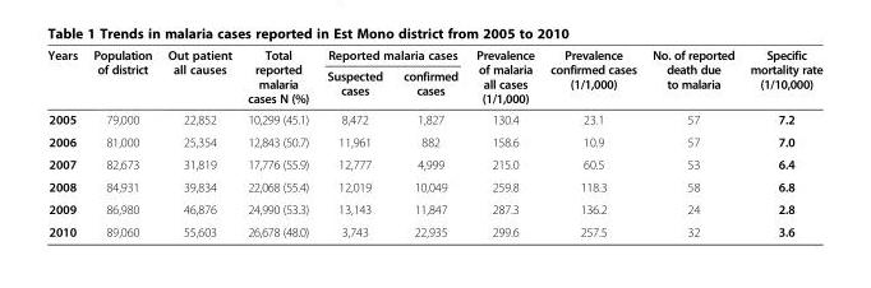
<table><thead><tr><td rowspan="2">Years</td><td rowspan="2">Population of district</td><td rowspan="2">Out patient all causes</td><td rowspan="2">Total reported malaria cases N (%)</td><td colspan="2">Reported malaria cases</td><td rowspan="2">Prevalence of malaria all cases (1/1,000)</td><td rowspan="2">Prevalence confirmed cases (1/1,000)</td><td rowspan="2">No. of reported death due to malaria</td><td rowspan="2">Specific mortality rate (1/10,000)</td></tr><tr><td>Suspected cases</td><td>confirmed cases</td></tr></thead><tbody><tr><td>2005</td><td>79,000</td><td>22,852</td><td>10,299 (45.1)</td><td>8,472</td><td>1,827</td><td>130.4</td><td>23.1</td><td>57</td><td>7.2</td></tr><tr><td>2006</td><td>81,000</td><td>25,354</td><td>12,843 (50.7)</td><td>11,961</td><td>882</td><td>158.6</td><td>10.9</td><td>57</td><td>7.0</td></tr><tr><td>2007</td><td>82,673</td><td>31,819</td><td>17,776 (55.9)</td><td>12,777</td><td>4,999</td><td>215.0</td><td>60.5</td><td>53</td><td>6.4</td></tr><tr><td>2008</td><td>84,931</td><td>39,834</td><td>22,068 (55.4)</td><td>12,019</td><td>10,049</td><td>259.8</td><td>118.3</td><td>58</td><td>6.8</td></tr><tr><td>2009</td><td>86,980</td><td>46,876</td><td>24,990 (53.3)</td><td>13,143</td><td>11,847</td><td>287.3</td><td>136.2</td><td>24</td><td>2.8</td></tr><tr><td>2010</td><td>89,060</td><td>55,603</td><td>26,678 (48.0)</td><td>3,743</td><td>22,935</td><td>299.6</td><td>257.5</td><td>32</td><td>3.6</td></tr></tbody></table>